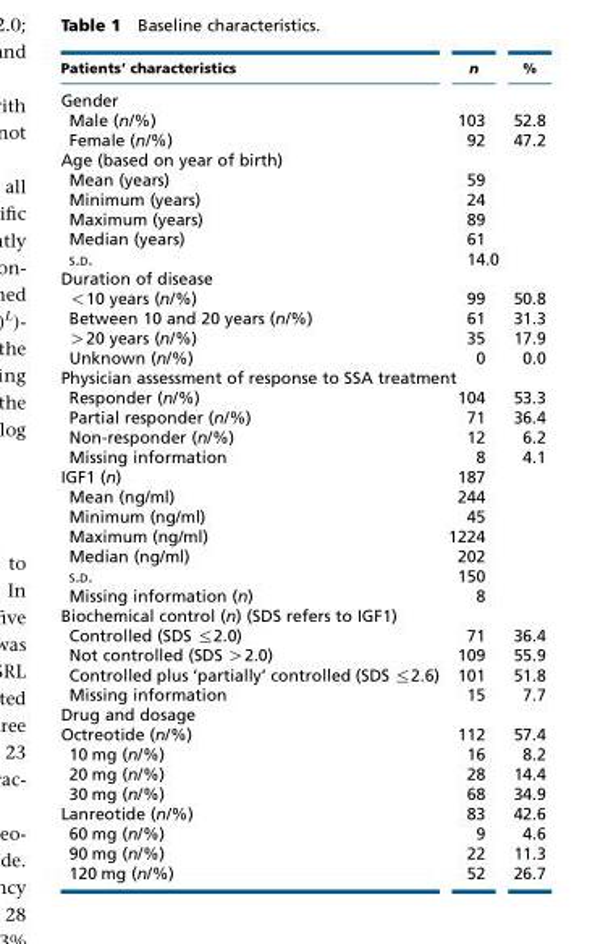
<table><thead><tr><td>Patients’ characteristics</td><td>n</td><td>%</td></tr></thead><tbody><tr><td colspan="3">Gender</td></tr><tr><td>Male (n/%)</td><td>103</td><td>52.8</td></tr><tr><td>Female (n/%)</td><td>92</td><td>47.2</td></tr><tr><td colspan="3">Age (based on year of birth)</td></tr><tr><td>Mean (years)</td><td>59</td><td></td></tr><tr><td>Minimum (years)</td><td>24</td><td></td></tr><tr><td>Maximum (years)</td><td>89</td><td></td></tr><tr><td>Median (years)</td><td>61</td><td></td></tr><tr><td>S.D.</td><td>14.0</td><td></td></tr><tr><td colspan="3">Duration of disease</td></tr><tr><td>&lt;10 years (n/%)</td><td>99</td><td>50.8</td></tr><tr><td>Between 10 and 20 years (n/%)</td><td>61</td><td>31.3</td></tr><tr><td>&gt;20 years (n/%)</td><td>35</td><td>17.9</td></tr><tr><td>Unknown (n/%)</td><td>0</td><td>0.0</td></tr><tr><td colspan="3">Physician assessment of response to SSA treatment</td></tr><tr><td>Responder (n/%)</td><td>104</td><td>53.3</td></tr><tr><td>Partial responder (n/%)</td><td>71</td><td>36.4</td></tr><tr><td>Non-responder (n/%)</td><td>12</td><td>6.2</td></tr><tr><td>Missing information</td><td>8</td><td>4.1</td></tr><tr><td>IGF1 (n)</td><td>187</td><td></td></tr><tr><td>Mean (ng/ml)</td><td>244</td><td></td></tr><tr><td>Minimum (ng/ml)</td><td>45</td><td></td></tr><tr><td>Maximum (ng/ml)</td><td>1224</td><td></td></tr><tr><td>Median (ng/ml)</td><td>202</td><td></td></tr><tr><td>S.D.</td><td>150</td><td></td></tr><tr><td>Missing information (n)</td><td>8</td><td></td></tr><tr><td colspan="3">Biochemical control (n) (SDS refers to IGF1)</td></tr><tr><td>Controlled (SDS ≤2.0)</td><td>71</td><td>36.4</td></tr><tr><td>Not controlled (SDS &gt;2.0)</td><td>109</td><td>55.9</td></tr><tr><td>Controlled plus ‘partially’ controlled (SDS ≤2.6)</td><td>101</td><td>51.8</td></tr><tr><td>Missing information</td><td>15</td><td>7.7</td></tr><tr><td colspan="3">Drug and dosage</td></tr><tr><td>Octreotide (n/%)</td><td>112</td><td>57.4</td></tr><tr><td>10 mg (n/%)</td><td>16</td><td>8.2</td></tr><tr><td>20 mg (n/%)</td><td>28</td><td>14.4</td></tr><tr><td>30 mg (n/%)</td><td>68</td><td>34.9</td></tr><tr><td>Lanreotide (n/%)</td><td>83</td><td>42.6</td></tr><tr><td>60 mg (n/%)</td><td>9</td><td>4.6</td></tr><tr><td>90 mg (n/%)</td><td>22</td><td>11.3</td></tr><tr><td>120 mg (n/%)</td><td>52</td><td>26.7</td></tr></tbody></table>